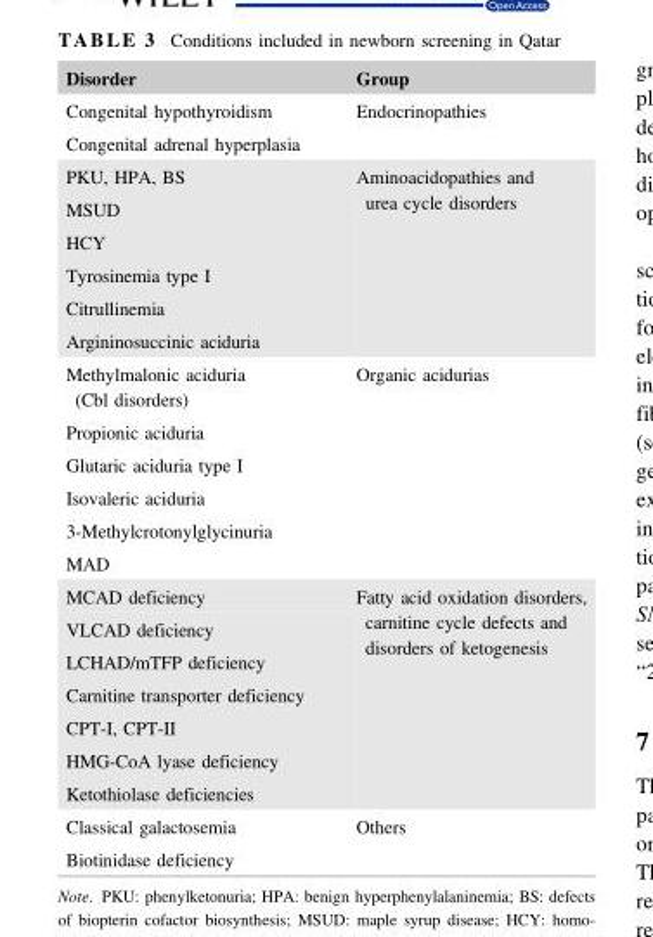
<table><thead><tr><td>Disorder</td><td>Group</td></tr></thead><tbody><tr><td>Congenital hypothyroidism</td><td rowspan="2">Endocrinopathies</td></tr><tr><td>Congenital adrenal hyperplasia</td></tr><tr><td>PKU, HPA, BS</td><td rowspan="6">Aminoacidopathies and urea cycle disorders</td></tr><tr><td>MSUD</td></tr><tr><td>HCY</td></tr><tr><td>Tyrosinemia type I</td></tr><tr><td>Citrullinemia</td></tr><tr><td>Argininosuccinic aciduria</td></tr><tr><td>Methylmalonic aciduria (Cbl disorders)</td><td rowspan="6">Organic acidurias</td></tr><tr><td>Propionic aciduria</td></tr><tr><td>Glutaric aciduria type I</td></tr><tr><td>Isovaleric aciduria</td></tr><tr><td>3‐Methylcrotonylglycinuria</td></tr><tr><td>MAD</td></tr><tr><td>MCAD deficiency</td><td rowspan="7">Fatty acid oxidation disorders, carnitine cycle defects and disorders of ketogenesis</td></tr><tr><td>VLCAD deficiency</td></tr><tr><td>LCHAD/mTFP deficiency</td></tr><tr><td>Carnitine transporter deficiency</td></tr><tr><td>CPT‐I, CPT‐II</td></tr><tr><td>HMG‐CoA lyase deficiency</td></tr><tr><td>Ketothiolase deficiencies</td></tr><tr><td>Classical galactosemia</td><td rowspan="2">Others</td></tr><tr><td>Biotinidase deficiency</td></tr></tbody></table>